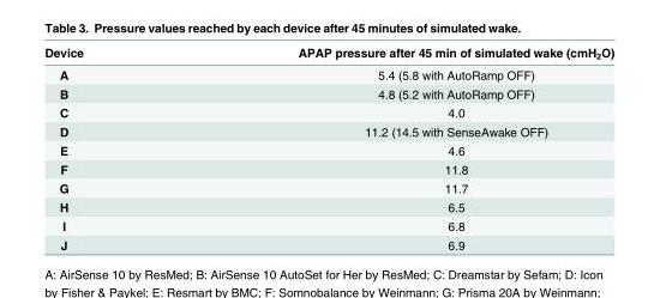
<table><thead><tr><td>Device</td><td>APAP pressure after 45 min of simulated wake (cmH<sub>2</sub>O)</td></tr></thead><tbody><tr><td>A</td><td>5.4 (5.8 with AutoRamp OFF)</td></tr><tr><td>B</td><td>4.8 (5.2 with AutoRamp OFF)</td></tr><tr><td>C</td><td>4.0</td></tr><tr><td>D</td><td>11.2 (14.5 with SenseAwake OFF)</td></tr><tr><td>E</td><td>4.6</td></tr><tr><td>F</td><td>11.8</td></tr><tr><td>G</td><td>11.7</td></tr><tr><td>H</td><td>6.5</td></tr><tr><td>I</td><td>6.8</td></tr><tr><td>J</td><td>6.9</td></tr></tbody></table>